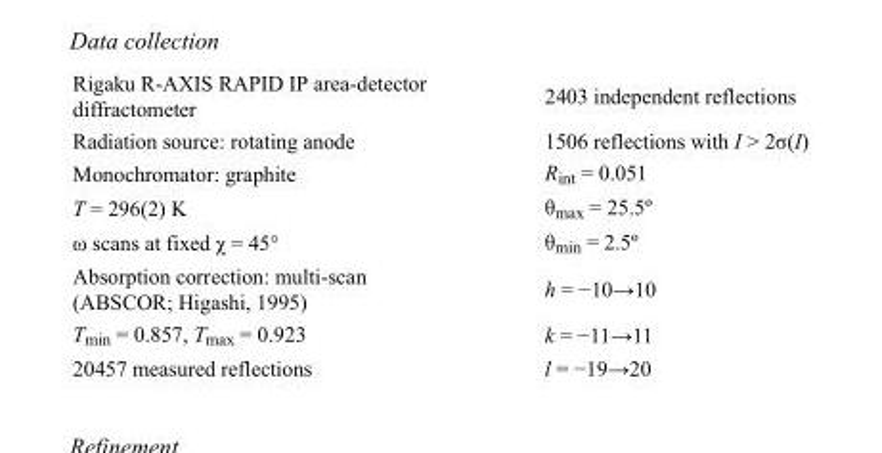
<table><tbody><tr><td>Rigaku R-AXIS RAPID IP area-detector diffractometer</td><td>2403 independent reflections</td></tr><tr><td>Radiation source: rotating anode</td><td>1506 reflections with I &gt; 2σ(I)</td></tr><tr><td>Monochromator: graphite</td><td>R<sub>int</sub> = 0.051</td></tr><tr><td>T = 296(2) K</td><td>θ<sub>max</sub> = 25.5º</td></tr><tr><td>ω scans at fixed χ = 45°</td><td>θ<sub>min</sub> = 2.5º</td></tr><tr><td>Absorption correction: multi-scan (ABSCOR; Higashi, 1995)</td><td>h = −10→10</td></tr><tr><td>T<sub>min</sub> = 0.857, T<sub>max</sub> = 0.923</td><td>k = −11→11</td></tr><tr><td>20457 measured reflections</td><td>l = −19→20</td></tr></tbody></table>